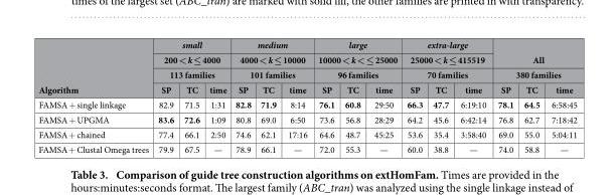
<table><thead><tr><td rowspan="4">Algorithm</td><td rowspan="3" colspan="3">small 200 &lt; k ≤ 4000 113 families</td><td rowspan="3" colspan="3">medium 4000 &lt; k ≤ 10000 101 families</td><td rowspan="3" colspan="3">large 10000 &lt; k &lt; ≤ 25000 96 families</td><td rowspan="3" colspan="3">extra-large 25000 &lt; k ≤ 415519 70 families</td><td></td><td></td><td></td></tr><tr><td rowspan="2" colspan="3">All 380 families</td></tr><tr></tr><tr><td>SP</td><td>TC</td><td>time</td><td>SP</td><td>TC</td><td>time</td><td>SP</td><td>TC</td><td>time</td><td>SP</td><td>TC</td><td>time</td><td>SP</td><td>TC</td><td>time</td></tr></thead><tbody><tr><td>FAMSA + single linkage</td><td>82.9</td><td>71.5</td><td>1:31</td><td>82.8</td><td>71.9</td><td>8:14</td><td>76.1</td><td>60.8</td><td>29:50</td><td>66.3</td><td>47.7</td><td>6:19:10</td><td>78.1</td><td>64.5</td><td>6:58:45</td></tr><tr><td>FAMSA + UPGMA</td><td>83.6</td><td>72.6</td><td>1:09</td><td>80.8</td><td>69.0</td><td>6:50</td><td>73.6</td><td>56.8</td><td>28:29</td><td>64.2</td><td>45.6</td><td>6:42:14</td><td>76.8</td><td>62.7</td><td>7:18:42</td></tr><tr><td>FAMSA + chained</td><td>77.4</td><td>66.1</td><td>2:50</td><td>74.6</td><td>62.1</td><td>17:16</td><td>64.6</td><td>48.7</td><td>45:25</td><td>53.6</td><td>35.4</td><td>3:58:40</td><td>69.0</td><td>55.0</td><td>5:04:11</td></tr><tr><td>FAMSA + Clustal Omega trees</td><td>79.9</td><td>67.5</td><td>—</td><td>78.9</td><td>66.1</td><td>—</td><td>72.0</td><td>55.3</td><td>—</td><td>60.0</td><td>38.8</td><td>—</td><td>74.0</td><td>58.8</td><td>—</td></tr></tbody></table>